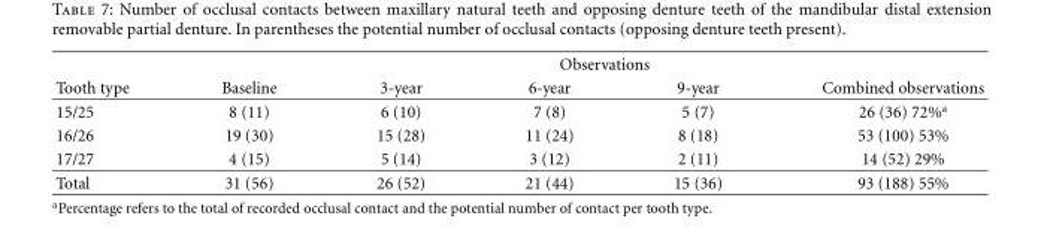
<table><thead><tr><td rowspan="2">Tooth type</td><td colspan="5">Observations</td></tr><tr><td>Baseline</td><td>3-year</td><td>6-year</td><td>9-year</td><td>Combined observations</td></tr></thead><tbody><tr><td>15/25</td><td>8 (11)</td><td>6 (10)</td><td>7 (8)</td><td>5 (7)</td><td>26 (36) 72%<sup>a</sup></td></tr><tr><td>16/26</td><td>19 (30)</td><td>15 (28)</td><td>11 (24)</td><td>8 (18)</td><td>53 (100) 53%</td></tr><tr><td>17/27</td><td>4 (15)</td><td>5 (14)</td><td>3 (12)</td><td>2 (11)</td><td>14 (52) 29%</td></tr><tr><td>Total</td><td>31 (56)</td><td>26 (52)</td><td>21 (44)</td><td>15 (36)</td><td>93 (188) 55%</td></tr></tbody></table>